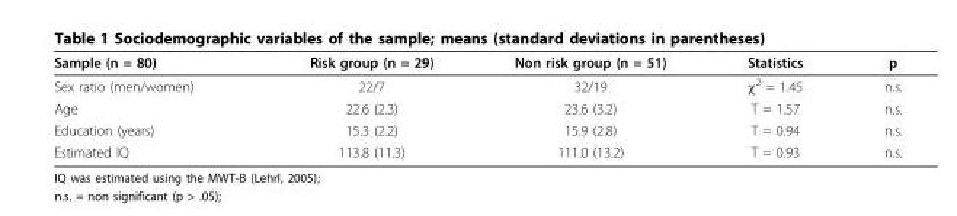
<table><thead><tr><td>Sample (n = 80)</td><td>Risk group (n = 29)</td><td>Non risk group (n = 51)</td><td>Statistics</td><td>p</td></tr></thead><tbody><tr><td>Sex ratio (men/women)</td><td>22/7</td><td>32/19</td><td>χ<sup>2</sup> = 1.45</td><td>n.s.</td></tr><tr><td>Age</td><td>22.6 (2.3)</td><td>23.6 (3.2)</td><td>T = 1.57</td><td>n.s.</td></tr><tr><td>Education (years)</td><td>15.3 (2.2)</td><td>15.9 (2.8)</td><td>T = 0.94</td><td>n.s.</td></tr><tr><td>Estimated IQ</td><td>113.8 (11.3)</td><td>111.0 (13.2)</td><td>T = 0.93</td><td>n.s.</td></tr></tbody></table>